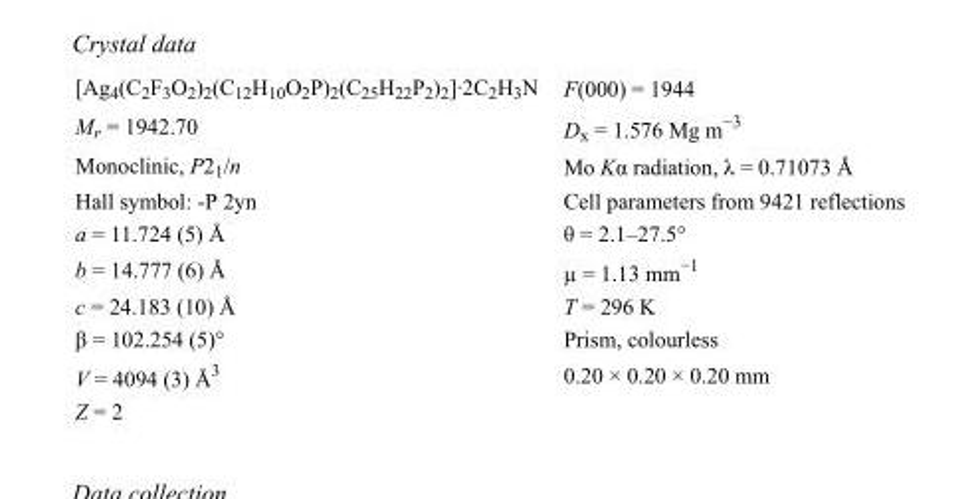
<table><tbody><tr><td>[Ag<sub>4</sub>(C<sub>2</sub>F<sub>3</sub>O<sub>2</sub>)<sub>2</sub>(C<sub>12</sub>H<sub>10</sub>O<sub>2</sub>P)<sub>2</sub>(C<sub>25</sub>H<sub>22</sub>P<sub>2</sub>)<sub>2</sub>]·2C<sub>2</sub>H<sub>3</sub>N</td><td>F(000) = 1944</td></tr><tr><td>M<sub>r</sub> = 1942.70</td><td>D<sub>x</sub> = 1.576 Mg m<sup>−3</sup></td></tr><tr><td>Monoclinic, P2<sub>1</sub>/n</td><td>Mo Kα radiation, λ = 0.71073 Å</td></tr><tr><td>Hall symbol: -P 2yn</td><td>Cell parameters from 9421 reflections</td></tr><tr><td>a = 11.724 (5) Å</td><td>θ = 2.1–27.5°</td></tr><tr><td>b = 14.777 (6) Å</td><td>µ = 1.13 mm<sup>−1</sup></td></tr><tr><td>c = 24.183 (10) Å</td><td>T = 296 K</td></tr><tr><td>β = 102.254 (5)°</td><td>Prism, colourless</td></tr><tr><td>V = 4094 (3) Å<sup>3</sup></td><td>0.20 × 0.20 × 0.20 mm</td></tr><tr><td>Z = 2</td><td></td></tr></tbody></table>